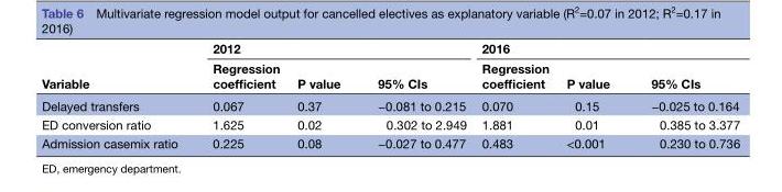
<table><thead><tr><td rowspan="2">Variable</td><td colspan="3">2012</td><td colspan="3">2016</td></tr><tr><td>Regression coefficient</td><td>P value</td><td>95% CIs</td><td>Regression coefficient</td><td>P value</td><td>95% CIs</td></tr></thead><tbody><tr><td>Delayed transfers</td><td>0.067</td><td>0.37</td><td>−0.081 to 0.215</td><td>0.070</td><td>0.15</td><td>−0.025 to 0.164</td></tr><tr><td>ED conversion ratio</td><td>1.625</td><td>0.02</td><td>0.302 to 2.949</td><td>1.881</td><td>0.01</td><td>0.385 to 3.377</td></tr><tr><td>Admission casemix ratio</td><td>0.225</td><td>0.08</td><td>−0.027 to 0.477</td><td>0.483</td><td>&lt;0.001</td><td>0.230 to 0.736</td></tr></tbody></table>